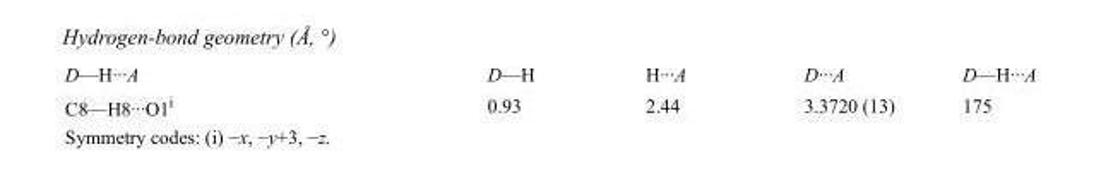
<table><tbody><tr><td>D—H···A</td><td>D—H</td><td>H···A</td><td>D···A</td><td>D—H···A</td></tr><tr><td>C8—H8···O1<sup>i</sup></td><td>0.93</td><td>2.44</td><td>3.3720 (13)</td><td>175</td></tr></tbody></table>